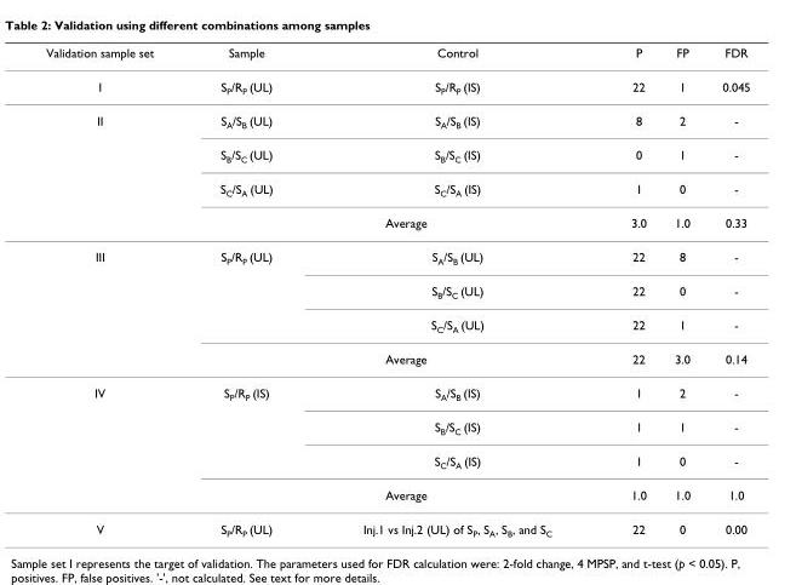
<table><thead><tr><td>Validation sample set</td><td>Sample</td><td>Control</td><td>P</td><td>FP</td><td>FDR</td></tr></thead><tbody><tr><td>I</td><td>S<sub>P</sub>/R<sub>P</sub> (UL)</td><td>S<sub>P</sub>/R<sub>P</sub> (IS)</td><td>22</td><td>1</td><td>0.045</td></tr><tr><td rowspan="4">II</td><td>S<sub>A</sub>/S<sub>B</sub> (UL)</td><td>S<sub>A</sub>/S<sub>B</sub> (IS)</td><td>8</td><td>2</td><td>-</td></tr><tr><td>S<sub>B</sub>/S<sub>C</sub> (UL)</td><td>S<sub>B</sub>/S<sub>C</sub> (IS)</td><td>0</td><td>1</td><td>-</td></tr><tr><td>S<sub>C</sub>/S<sub>A</sub> (UL)</td><td>S<sub>C</sub>/S<sub>A</sub> (IS)</td><td>1</td><td>0</td><td>-</td></tr><tr><td colspan="2">Average</td><td>3.0</td><td>1.0</td><td>0.33</td></tr><tr><td rowspan="4">III</td><td>S<sub>P</sub>/R<sub>P</sub> (UL)</td><td>S<sub>A</sub>/S<sub>B</sub> (UL)</td><td>22</td><td>8</td><td>-</td></tr><tr><td></td><td>S<sub>B</sub>/S<sub>C</sub> (UL)</td><td>22</td><td>0</td><td>-</td></tr><tr><td></td><td>S<sub>C</sub>/S<sub>A</sub> (UL)</td><td>22</td><td>1</td><td>-</td></tr><tr><td colspan="2">Average</td><td>22</td><td>3.0</td><td>0.14</td></tr><tr><td rowspan="4">IV</td><td>S<sub>P</sub>/R<sub>P</sub> (IS)</td><td>S<sub>A</sub>/S<sub>B</sub> (IS)</td><td>1</td><td>2</td><td>-</td></tr><tr><td></td><td>S<sub>B</sub>/S<sub>C</sub> (IS)</td><td>1</td><td>1</td><td>-</td></tr><tr><td></td><td>S<sub>C</sub>/S<sub>A</sub> (IS)</td><td>1</td><td>0</td><td>-</td></tr><tr><td colspan="2">Average</td><td>1.0</td><td>1.0</td><td>1.0</td></tr><tr><td>V</td><td>S<sub>P</sub>/R<sub>P</sub> (UL)</td><td>Inj.1 vs Inj.2 (UL) of S<sub>P</sub>, S<sub>A</sub>, S<sub>B</sub>, and S<sub>C</sub></td><td>22</td><td>0</td><td>0.00</td></tr></tbody></table>